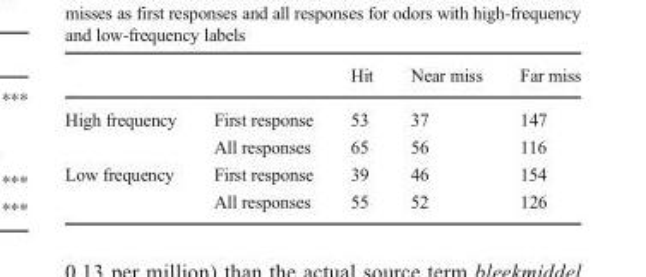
<table><thead><tr><td></td><td></td><td>Hit</td><td>Near miss</td><td>Far miss</td></tr></thead><tbody><tr><td rowspan="2">High frequency</td><td>First response</td><td>53</td><td>37</td><td>147</td></tr><tr><td>All responses</td><td>65</td><td>56</td><td>116</td></tr><tr><td rowspan="2">Low frequency</td><td>First response</td><td>39</td><td>46</td><td>154</td></tr><tr><td>All responses</td><td>55</td><td>52</td><td>126</td></tr></tbody></table>